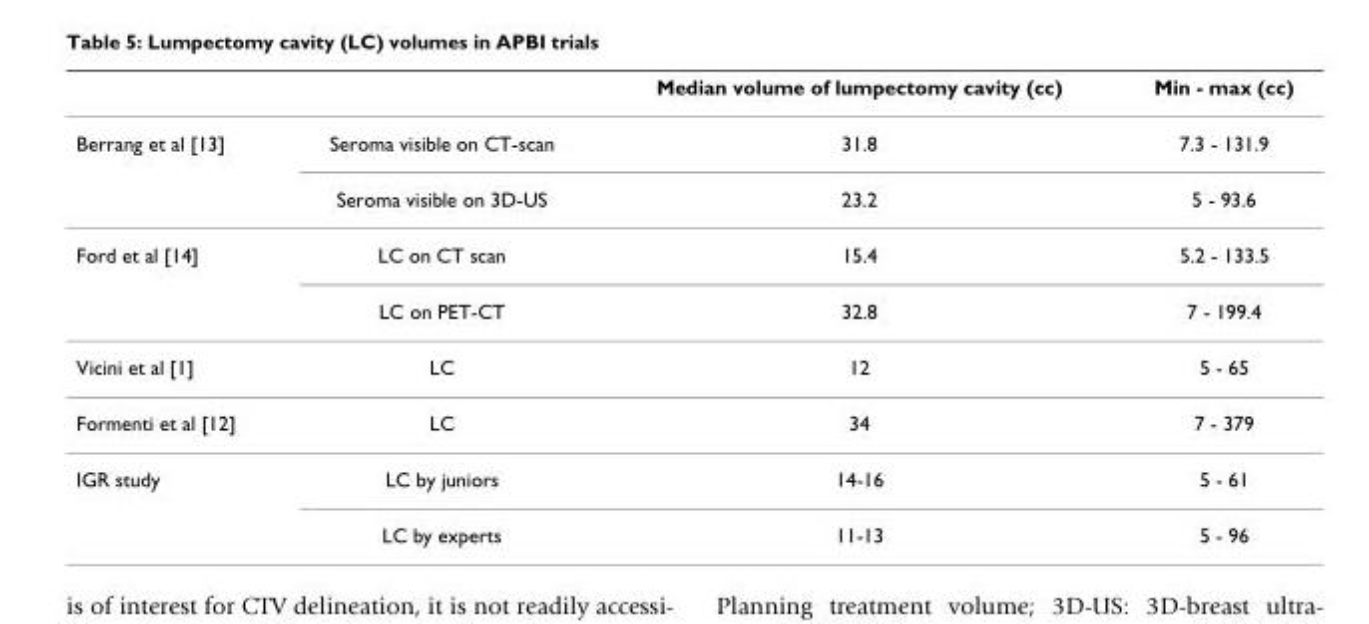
<table><thead><tr><td></td><td></td><td>Median volume of lumpectomy cavity (cc)</td><td>Min - max (cc)</td></tr></thead><tbody><tr><td rowspan="2">Berrang et al [13]</td><td>Seroma visible on CT-scan</td><td>31.8</td><td>7.3 - 131.9</td></tr><tr><td>Seroma visible on 3D-US</td><td>23.2</td><td>5 - 93.6</td></tr><tr><td rowspan="2">Ford et al [14]</td><td>LC on CT scan</td><td>15.4</td><td>5.2 - 133.5</td></tr><tr><td>LC on PET-CT</td><td>32.8</td><td>7 - 199.4</td></tr><tr><td>Vicini et al [1]</td><td>LC</td><td>12</td><td>5 - 65</td></tr><tr><td>Formenti et al [12]</td><td>LC</td><td>34</td><td>7 - 379</td></tr><tr><td rowspan="2">IGR study</td><td>LC by juniors</td><td>14-16</td><td>5 - 61</td></tr><tr><td>LC by experts</td><td>11-13</td><td>5 - 96</td></tr></tbody></table>